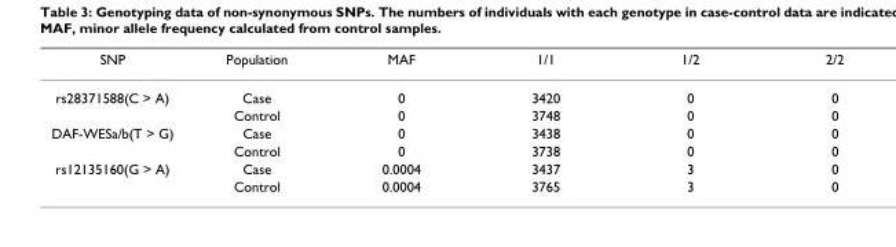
<table><thead><tr><td>SNP</td><td>Population</td><td>MAF</td><td>1/1</td><td>1/2</td><td>2/2</td></tr></thead><tbody><tr><td rowspan="2">rs28371588(C &gt; A)</td><td>Case</td><td>0</td><td>3420</td><td>0</td><td>0</td></tr><tr><td>Control</td><td>0</td><td>3748</td><td>0</td><td>0</td></tr><tr><td rowspan="2">DAF-WESa/b(T &gt; G)</td><td>Case</td><td>0</td><td>3438</td><td>0</td><td>0</td></tr><tr><td>Control</td><td>0</td><td>3738</td><td>0</td><td>0</td></tr><tr><td rowspan="2">rs12135160(G &gt; A)</td><td>Case</td><td>0.0004</td><td>3437</td><td>3</td><td>0</td></tr><tr><td>Control</td><td>0.0004</td><td>3765</td><td>3</td><td>0</td></tr></tbody></table>